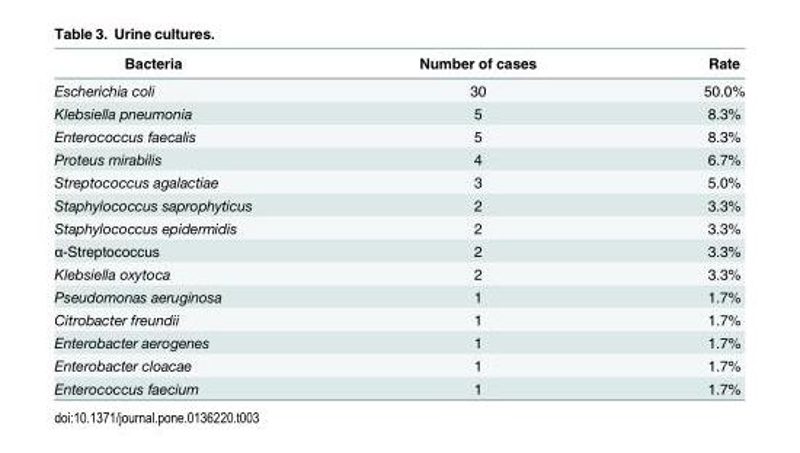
<table><thead><tr><td>Bacteria</td><td>Number of cases</td><td>Rate</td></tr></thead><tbody><tr><td>Escherichia coli</td><td>30</td><td>50.0%</td></tr><tr><td>Klebsiella pneumonia</td><td>5</td><td>8.3%</td></tr><tr><td>Enterococcus faecalis</td><td>5</td><td>8.3%</td></tr><tr><td>Proteus mirabilis</td><td>4</td><td>6.7%</td></tr><tr><td>Streptococcus agalactiae</td><td>3</td><td>5.0%</td></tr><tr><td>Staphylococcus saprophyticus</td><td>2</td><td>3.3%</td></tr><tr><td>Staphylococcus epidermidis</td><td>2</td><td>3.3%</td></tr><tr><td>α-Streptococcus</td><td>2</td><td>3.3%</td></tr><tr><td>Klebsiella oxytoca</td><td>2</td><td>3.3%</td></tr><tr><td>Pseudomonas aeruginosa</td><td>1</td><td>1.7%</td></tr><tr><td>Citrobacter freundii</td><td>1</td><td>1.7%</td></tr><tr><td>Enterobacter aerogenes</td><td>1</td><td>1.7%</td></tr><tr><td>Enterobacter cloacae</td><td>1</td><td>1.7%</td></tr><tr><td>Enterococcus faecium</td><td>1</td><td>1.7%</td></tr></tbody></table>